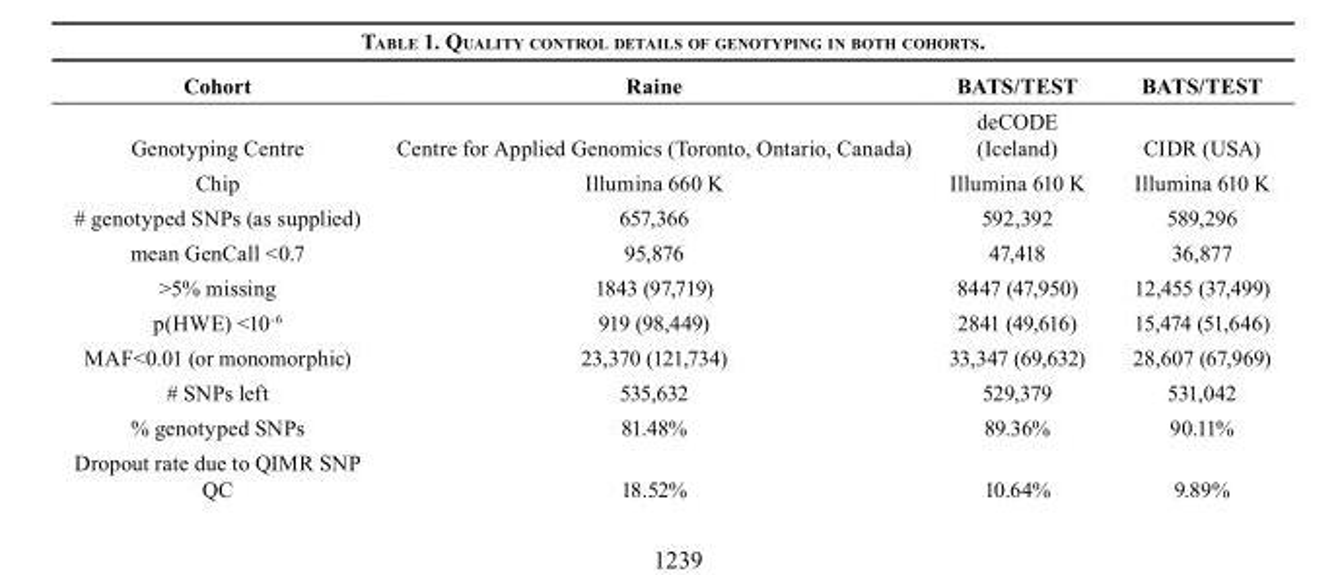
<table><thead><tr><td>Cohort</td><td>Raine</td><td>BATS/TEST</td><td>BATS/TEST</td></tr></thead><tbody><tr><td>Genotyping Centre</td><td>Centre for Applied Genomics (Toronto, Ontario, Canada)</td><td>deCODE (Iceland)</td><td>CIDR (USA)</td></tr><tr><td>Chip</td><td>Illumina 660 K</td><td>Illumina 610 K</td><td>Illumina 610 K</td></tr><tr><td># genotyped SNPs (as supplied)</td><td>657,366</td><td>592,392</td><td>589,296</td></tr><tr><td>mean GenCall &lt;0.7</td><td>95,876</td><td>47,418</td><td>36,877</td></tr><tr><td>&gt;5% missing</td><td>1843 (97,719)</td><td>8447 (47,950)</td><td>12,455 (37,499)</td></tr><tr><td>p(HWE) &lt;10<sup>-6</sup></td><td>919 (98,449)</td><td>2841 (49,616)</td><td>15,474 (51,646)</td></tr><tr><td>MAF&lt;0.01 (or monomorphic)</td><td>23,370 (121,734)</td><td>33,347 (69,632)</td><td>28,607 (67,969)</td></tr><tr><td># SNPs left</td><td>535,632</td><td>529,379</td><td>531,042</td></tr><tr><td>% genotyped SNPs</td><td>81.48%</td><td>89.36%</td><td>90.11%</td></tr><tr><td>Dropout rate due to QIMR SNP QC</td><td>18.52%</td><td>10.64%</td><td>9.89%</td></tr></tbody></table>